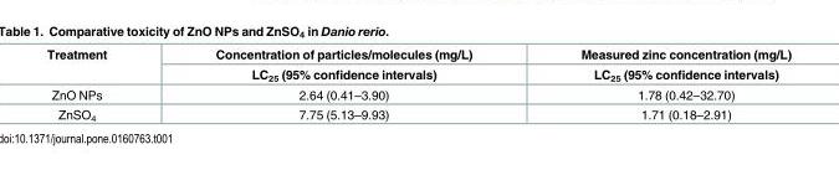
<table><thead><tr><td rowspan="2">Treatment</td><td rowspan="2">Concentration of particles/molecules (mg/L) LC<sub>25</sub> (95% confidence intervals)</td><td rowspan="2">Measured zinc concentration (mg/L) LC<sub>25</sub> (95% confidence intervals)</td></tr><tr></tr></thead><tbody><tr><td>ZnO NPs</td><td>2.64 (0.41–3.90)</td><td>1.78 (0.42–32.70)</td></tr><tr><td>ZnSO<sub>4</sub></td><td>7.75 (5.13–9.93)</td><td>1.71 (0.18–2.91)</td></tr></tbody></table>